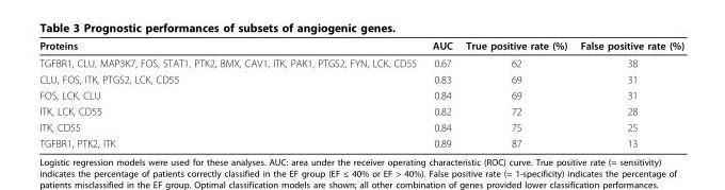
<table><thead><tr><td>Proteins</td><td>AUC</td><td>True positive rate (%)</td><td>False positive rate (%)</td></tr></thead><tbody><tr><td>TGFBR1, CLU, MAP3K7, FOS, STAT1, PTK2, BMX, CAV1, ITK, PAK1, PTGS2, FYN, LCK, CD55</td><td>0.67</td><td>62</td><td>38</td></tr><tr><td>CLU, FOS, ITK, PTGS2, LCK, CD55</td><td>0.83</td><td>69</td><td>31</td></tr><tr><td>FOS, LCK, CLU</td><td>0.84</td><td>69</td><td>31</td></tr><tr><td>ITK, LCK, CD55</td><td>0.82</td><td>72</td><td>28</td></tr><tr><td>ITK, CD55</td><td>0.84</td><td>75</td><td>25</td></tr><tr><td>TGFBR1, PTK2, ITK</td><td>0.89</td><td>87</td><td>13</td></tr></tbody></table>